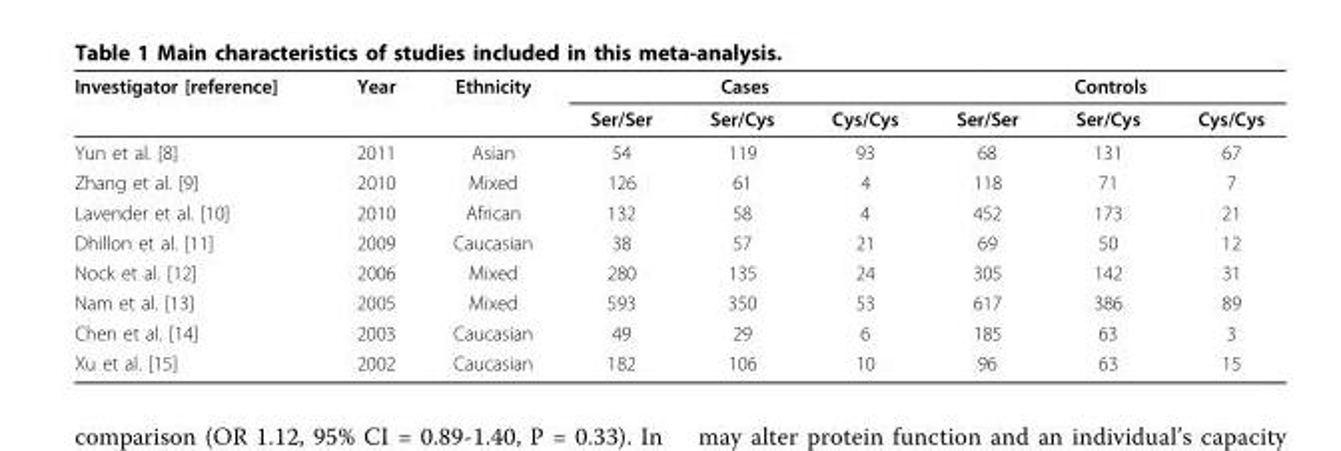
<table><thead><tr><td rowspan="2">Investigator [reference]</td><td rowspan="2">Year</td><td rowspan="2">Ethnicity</td><td colspan="3">Cases</td><td colspan="3">Controls</td></tr><tr><td>Ser/Ser</td><td>Ser/Cys</td><td>Cys/Cys</td><td>Ser/Ser</td><td>Ser/Cys</td><td>Cys/Cys</td></tr></thead><tbody><tr><td>Yun et al. [8]</td><td>2011</td><td>Asian</td><td>54</td><td>119</td><td>93</td><td>68</td><td>131</td><td>67</td></tr><tr><td>Zhang et al. [9]</td><td>2010</td><td>Mixed</td><td>126</td><td>61</td><td>4</td><td>118</td><td>71</td><td>7</td></tr><tr><td>Lavender et al. [10]</td><td>2010</td><td>African</td><td>132</td><td>58</td><td>4</td><td>452</td><td>173</td><td>21</td></tr><tr><td>Dhillon et al. [11]</td><td>2009</td><td>Caucasian</td><td>38</td><td>57</td><td>21</td><td>69</td><td>50</td><td>12</td></tr><tr><td>Nock et al. [12]</td><td>2006</td><td>Mixed</td><td>280</td><td>135</td><td>24</td><td>305</td><td>142</td><td>31</td></tr><tr><td>Nam et al. [13]</td><td>2005</td><td>Mixed</td><td>593</td><td>350</td><td>53</td><td>617</td><td>386</td><td>89</td></tr><tr><td>Chen et al. [14]</td><td>2003</td><td>Caucasian</td><td>49</td><td>29</td><td>6</td><td>185</td><td>63</td><td>3</td></tr><tr><td>Xu et al. [15]</td><td>2002</td><td>Caucasian</td><td>182</td><td>106</td><td>10</td><td>96</td><td>63</td><td>15</td></tr></tbody></table>